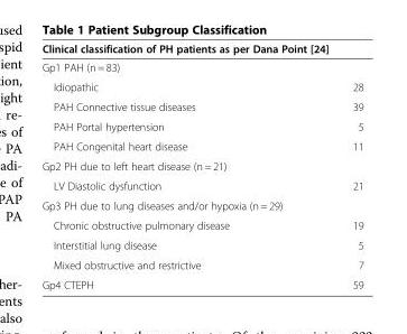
<table><thead><tr><td colspan="2">Clinical classification of PH patients as per Dana Point [24]</td></tr><tr><td>Gp1 PAH (n = 83)</td><td></td></tr></thead><tbody><tr><td>Idiopathic</td><td>28</td></tr><tr><td>PAH Connective tissue diseases</td><td>39</td></tr><tr><td>PAH Portal hypertension</td><td>5</td></tr><tr><td>PAH Congenital heart disease</td><td>11</td></tr><tr><td colspan="2">Gp2 PH due to left heart disease (n = 21)</td></tr><tr><td>LV Diastolic dysfunction</td><td>21</td></tr><tr><td colspan="2">Gp3 PH due to lung diseases and/or hypoxia (n = 29)</td></tr><tr><td>Chronic obstructive pulmonary disease</td><td>19</td></tr><tr><td>Interstitial lung disease</td><td>5</td></tr><tr><td>Mixed obstructive and restrictive</td><td>7</td></tr><tr><td>Gp4 CTEPH</td><td>59</td></tr></tbody></table>